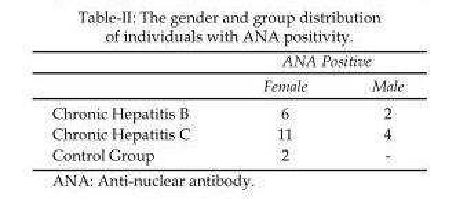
<table><thead><tr><td rowspan="2"></td><td colspan="2">ANA Positive</td></tr><tr><td>Female</td><td>Male</td></tr></thead><tbody><tr><td>Chronic Hepatitis B</td><td>6</td><td>2</td></tr><tr><td>Chronic Hepatitis C</td><td>11</td><td>4</td></tr><tr><td>Control Group</td><td>2</td><td>-</td></tr></tbody></table>